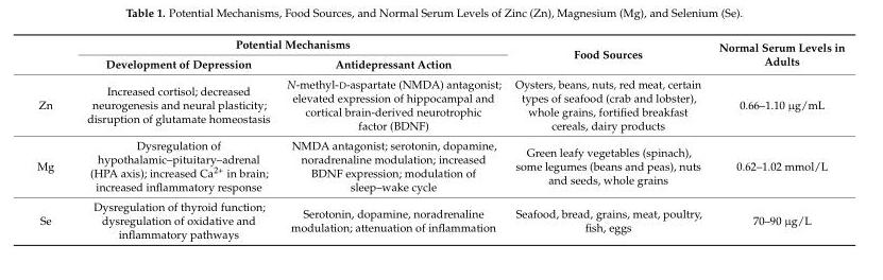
<table><thead><tr><td rowspan="2"></td><td colspan="2">Potential Mechanisms</td><td rowspan="2">Food Sources</td><td rowspan="2">Normal Serum Levels in Adults</td></tr><tr><td>Development of Depression</td><td>Antidepressant Action</td></tr></thead><tbody><tr><td>Zn</td><td>Increased cortisol; decreased neurogenesis and neural plasticity; disruption of glutamate homeostasis</td><td>N-methyl-D-aspartate (NMDA) antagonist; elevated expression of hippocampal and cortical brain-derived neurotrophic factor (BDNF)</td><td>Oysters, beans, nuts, red meat, certain types of seafood (crab and lobster), whole grains, fortified breakfast cereals, dairy products</td><td>0.66–1.10 µg/mL</td></tr><tr><td>Mg</td><td>Dysregulation of hypothalamic–pituitary–adrenal (HPA axis); increased Ca<sup>2+</sup> in brain; increased inflammatory response</td><td>NMDA antagonist; serotonin, dopamine, noradrenaline modulation; increased BDNF expression; modulation of sleep–wake cycle</td><td>Green leafy vegetables (spinach), some legumes (beans and peas), nuts and seeds, whole grains</td><td>0.62–1.02 mmol/L</td></tr><tr><td>Se</td><td>Dysregulation of thyroid function; dysregulation of oxidative and inflammatory pathways</td><td>Serotonin, dopamine, noradrenaline modulation; attenuation of inflammation</td><td>Seafood, bread, grains, meat, poultry, fish, eggs</td><td>70–90 µg/L</td></tr></tbody></table>